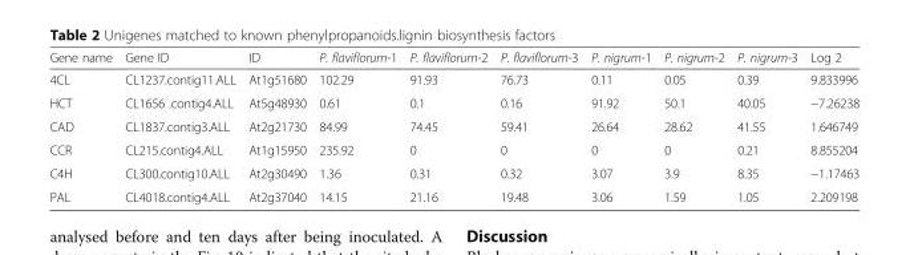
<table><thead><tr><td>Gene name</td><td>Gene ID</td><td>ID</td><td>P. flaviflorum-1</td><td>P. flaviflorum-2</td><td>P. flaviflorum-3</td><td>P. nigrum-1</td><td>P. nigrum-2</td><td>P. nigrum-3</td><td>Log 2</td></tr></thead><tbody><tr><td>4CL</td><td>CL1237.contig11.ALL</td><td>At1g51680</td><td>102.29</td><td>91.93</td><td>76.73</td><td>0.11</td><td>0.05</td><td>0.39</td><td>9.833996</td></tr><tr><td>HCT</td><td>CL1656 .contig4.ALL</td><td>At5g48930</td><td>0.61</td><td>0.1</td><td>0.16</td><td>91.92</td><td>50.1</td><td>40.05</td><td>−7.26238</td></tr><tr><td>CAD</td><td>CL1837.contig3.ALL</td><td>At2g21730</td><td>84.99</td><td>74.45</td><td>59.41</td><td>26.64</td><td>28.62</td><td>41.55</td><td>1.646749</td></tr><tr><td>CCR</td><td>CL215.contig4.ALL</td><td>At1g15950</td><td>235.92</td><td>0</td><td>0</td><td>0</td><td>0</td><td>0.21</td><td>8.855204</td></tr><tr><td>C4H</td><td>CL300.contig10.ALL</td><td>At2g30490</td><td>1.36</td><td>0.31</td><td>0.32</td><td>3.07</td><td>3.9</td><td>8.35</td><td>−1.17463</td></tr><tr><td>PAL</td><td>CL4018.contig4.ALL</td><td>At2g37040</td><td>14.15</td><td>21.16</td><td>19.48</td><td>3.06</td><td>1.59</td><td>1.05</td><td>2.209198</td></tr></tbody></table>